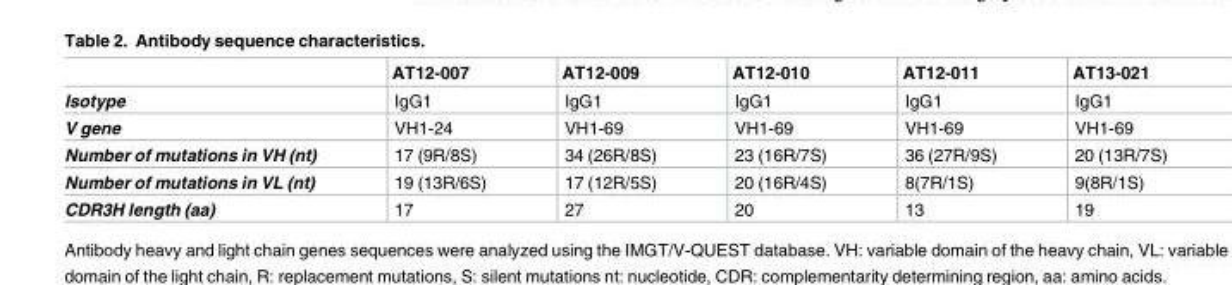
<table><thead><tr><td></td><td>AT12-007</td><td>AT12-009</td><td>AT12-010</td><td>AT12-011</td><td>AT13-021</td></tr></thead><tbody><tr><td>Isotype</td><td>IgG1</td><td>IgG1</td><td>IgG1</td><td>IgG1</td><td>IgG1</td></tr><tr><td>V gene</td><td>VH1-24</td><td>VH1-69</td><td>VH1-69</td><td>VH1-69</td><td>VH1-69</td></tr><tr><td>Number of mutations in VH (nt)</td><td>17 (9R/8S)</td><td>34 (26R/8S)</td><td>23 (16R/7S)</td><td>36 (27R/9S)</td><td>20 (13R/7S)</td></tr><tr><td>Number of mutations in VL (nt)</td><td>19 (13R/6S)</td><td>17 (12R/5S)</td><td>20 (16R/4S)</td><td>8(7R/1S)</td><td>9(8R/1S)</td></tr><tr><td>CDR3H length (aa)</td><td>17</td><td>27</td><td>20</td><td>13</td><td>19</td></tr></tbody></table>